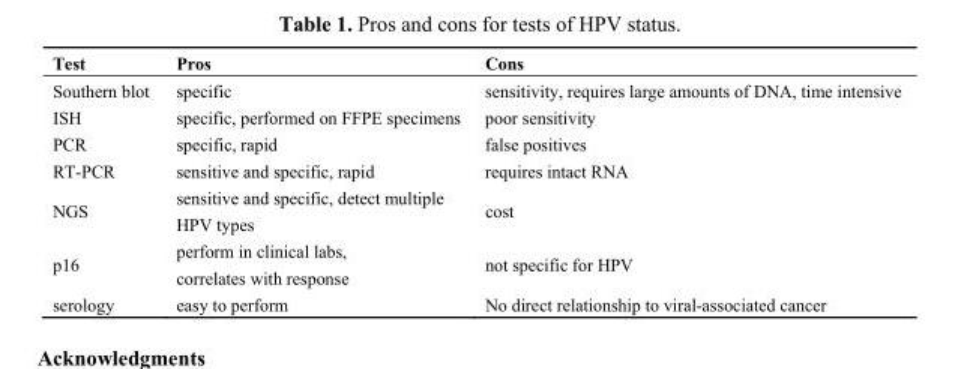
<table><thead><tr><td>Test</td><td>Pros</td><td>Cons</td></tr></thead><tbody><tr><td>Southern blot</td><td>specific</td><td>sensitivity, requires large amounts of DNA, time intensive</td></tr><tr><td>ISH</td><td>specific, performed on FFPE specimens</td><td>poor sensitivity</td></tr><tr><td>PCR</td><td>specific, rapid</td><td>false positives</td></tr><tr><td>RT-PCR</td><td>sensitive and specific, rapid</td><td>requires intact RNA</td></tr><tr><td>NGS</td><td>sensitive and specific, detect multiple HPV types</td><td>cost</td></tr><tr><td>p16</td><td>perform in clinical labs, correlates with response</td><td>not specific for HPV</td></tr><tr><td>serology</td><td>easy to perform</td><td>No direct relationship to viral-associated cancer</td></tr></tbody></table>